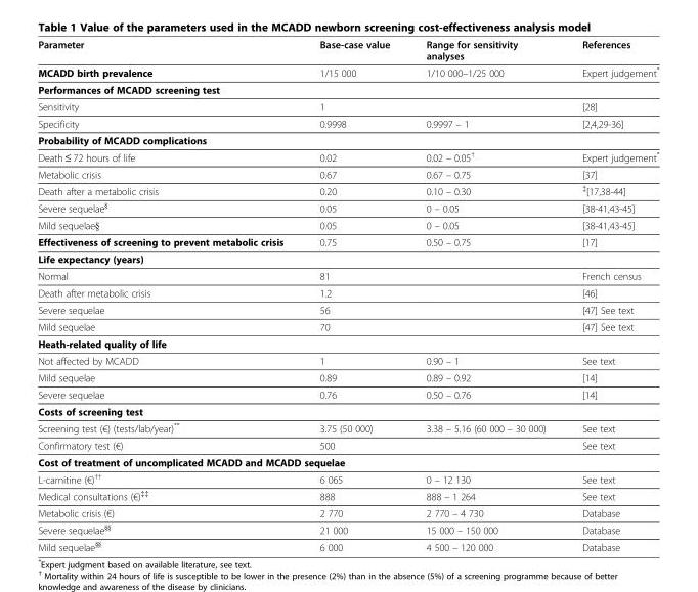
<table><thead><tr><td>Parameter</td><td>Base-case value</td><td>Range for sensitivity analyses</td><td>References</td></tr></thead><tbody><tr><td>MCADD birth prevalence</td><td>1/15 000</td><td>1/10 000–1/25 000</td><td>Expert judgement*</td></tr><tr><td colspan="4">Performances of MCADD screening test</td></tr><tr><td>Sensitivity</td><td>1</td><td></td><td>[28]</td></tr><tr><td>Specificity</td><td>0.9998</td><td>0.9997 – 1</td><td>[2,4,29-36]</td></tr><tr><td colspan="4">Probability of MCADD complications</td></tr><tr><td>Death ≤ 72 hours of life</td><td>0.02</td><td>0.02 – 0.05<sup>†</sup></td><td>Expert judgement*</td></tr><tr><td>Metabolic crisis</td><td>0.67</td><td>0.67 – 0.75</td><td>[37]</td></tr><tr><td>Death after a metabolic crisis</td><td>0.20</td><td>0.10 – 0.30</td><td><sup>‡</sup>[17,38-44]</td></tr><tr><td>Severe sequelae<sup>§</sup></td><td>0.05</td><td>0 – 0.05</td><td>[38-41,43-45]</td></tr><tr><td>Mild sequelae§</td><td>0.05</td><td>0 – 0.05</td><td>[38-41,43-45]</td></tr><tr><td>Effectiveness of screening to prevent metabolic crisis</td><td>0.75</td><td>0.50 – 0.75</td><td>[17]</td></tr><tr><td colspan="4">Life expectancy (years)</td></tr><tr><td>Normal</td><td>81</td><td></td><td>French census</td></tr><tr><td>Death after metabolic crisis</td><td>1.2</td><td></td><td>[46]</td></tr><tr><td>Severe sequelae</td><td>56</td><td></td><td>[47] See text</td></tr><tr><td>Mild sequelae</td><td>70</td><td></td><td>[47] See text</td></tr><tr><td colspan="4">Heath-related quality of life</td></tr><tr><td>Not affected by MCADD</td><td>1</td><td>0.90 – 1</td><td>See text</td></tr><tr><td>Mild sequelae</td><td>0.89</td><td>0.89 – 0.92</td><td>[14]</td></tr><tr><td>Severe sequelae</td><td>0.76</td><td>0.50 – 0.76</td><td>[14]</td></tr><tr><td colspan="4">Costs of screening test</td></tr><tr><td>Screening test (€) (tests/lab/year)**</td><td>3.75 (50 000)</td><td>3.38 – 5.16 (60 000 – 30 000)</td><td>See text</td></tr><tr><td>Confirmatory test (€)</td><td>500</td><td></td><td>See text</td></tr><tr><td colspan="4">Cost of treatment of uncomplicated MCADD and MCADD sequelae</td></tr><tr><td>L-carnitine (€)<sup>††</sup></td><td>6 065</td><td>0 – 12 130</td><td>See text</td></tr><tr><td>Medical consultations (€)<sup>‡‡</sup></td><td>888</td><td>888 – 1 264</td><td>See text</td></tr><tr><td>Metabolic crisis (€)</td><td>2 770</td><td>2 770 – 4 730</td><td>Database</td></tr><tr><td>Severe sequelae<sup>§§</sup></td><td>21 000</td><td>15 000 – 150 000</td><td>Database</td></tr><tr><td>Mild sequelae<sup>§§</sup></td><td>6 000</td><td>4 500 – 120 000</td><td>Database</td></tr></tbody></table>